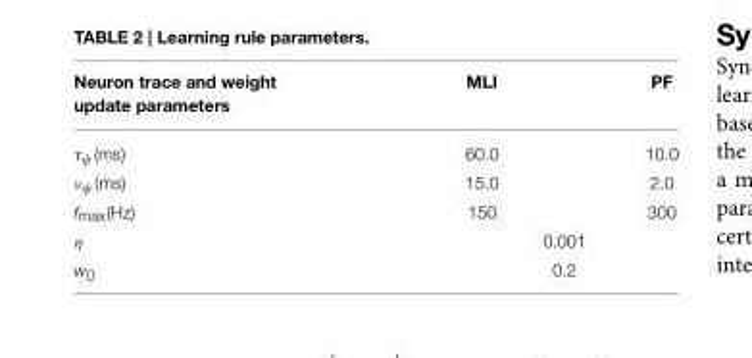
<table><thead><tr><td>Neuron trace and weight update parameters</td><td>MLI</td><td>PF</td></tr></thead><tbody><tr><td>τ<sub>ψ</sub>(ms)</td><td>60.0</td><td>10.0</td></tr><tr><td>ν<sub>ψ</sub>(ms)</td><td>15.0</td><td>2.0</td></tr><tr><td>f<sub>max</sub>(Hz)</td><td>150</td><td>300</td></tr><tr><td>η</td><td colspan="2">0.001</td></tr><tr><td>w<sub>0</sub></td><td colspan="2">0.2</td></tr></tbody></table>